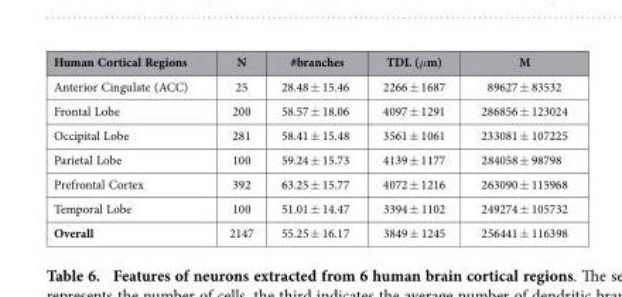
<table><thead><tr><td>Human Cortical Regions</td><td>N</td><td>#branches</td><td>TDL (μm)</td><td>M</td></tr></thead><tbody><tr><td>Anterior Cingulate (ACC)</td><td>25</td><td>28.48 ± 15.46</td><td>2266 ± 1687</td><td>89627 ± 83532</td></tr><tr><td>Frontal Lobe</td><td>200</td><td>58.57 ± 18.06</td><td>4097 ± 1291</td><td>286856 ± 123024</td></tr><tr><td>Occipital Lobe</td><td>281</td><td>58.41 ± 15.48</td><td>3561 ± 1061</td><td>233081 ± 107225</td></tr><tr><td>Parietal Lobe</td><td>100</td><td>59.24 ± 15.73</td><td>4139 ± 1177</td><td>284058 ± 98798</td></tr><tr><td>Prefrontal Cortex</td><td>392</td><td>63.25 ± 15.77</td><td>4072 ± 1216</td><td>263090 ± 115968</td></tr><tr><td>Temporal Lobe</td><td>100</td><td>51.01 ± 14.47</td><td>3394 ± 1102</td><td>249274 ± 105732</td></tr><tr><td>Overall</td><td>2147</td><td>55.25 ± 16.17</td><td>3849 ± 1245</td><td>256441 ± 116398</td></tr></tbody></table>